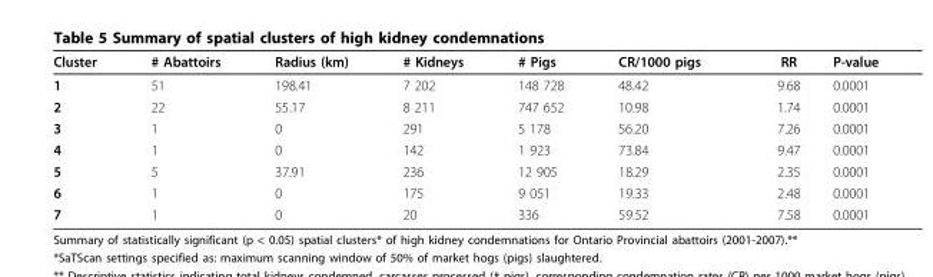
<table><thead><tr><td>Cluster</td><td># Abattoirs</td><td>Radius (km)</td><td># Kidneys</td><td># Pigs</td><td>CR/1000 pigs</td><td>RR</td><td>P-value</td></tr></thead><tbody><tr><td>1</td><td>51</td><td>198.41</td><td>7 202</td><td>148 728</td><td>48.42</td><td>9.68</td><td>0.0001</td></tr><tr><td>2</td><td>22</td><td>55.17</td><td>8 211</td><td>747 652</td><td>10.98</td><td>1.74</td><td>0.0001</td></tr><tr><td>3</td><td>1</td><td>0</td><td>291</td><td>5 178</td><td>56.20</td><td>7.26</td><td>0.0001</td></tr><tr><td>4</td><td>1</td><td>0</td><td>142</td><td>1 923</td><td>73.84</td><td>9.47</td><td>0.0001</td></tr><tr><td>5</td><td>5</td><td>37.91</td><td>236</td><td>12 905</td><td>18.29</td><td>2.35</td><td>0.0001</td></tr><tr><td>6</td><td>1</td><td>0</td><td>175</td><td>9 051</td><td>19.33</td><td>2.48</td><td>0.0001</td></tr><tr><td>7</td><td>1</td><td>0</td><td>20</td><td>336</td><td>59.52</td><td>7.58</td><td>0.0001</td></tr></tbody></table>